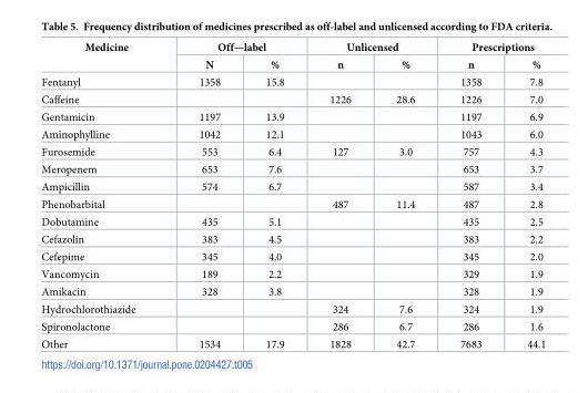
<table><thead><tr><td rowspan="2">Medicine</td><td colspan="2">Off—label</td><td colspan="2">Unlicensed</td><td colspan="2">Prescriptions</td></tr><tr><td>N</td><td>%</td><td>n</td><td>%</td><td>n</td><td>%</td></tr></thead><tbody><tr><td>Fentanyl</td><td>1358</td><td>15.8</td><td></td><td></td><td>1358</td><td>7.8</td></tr><tr><td>Caffeine</td><td></td><td></td><td>1226</td><td>28.6</td><td>1226</td><td>7.0</td></tr><tr><td>Gentamicin</td><td>1197</td><td>13.9</td><td></td><td></td><td>1197</td><td>6.9</td></tr><tr><td>Aminophylline</td><td>1042</td><td>12.1</td><td></td><td></td><td>1043</td><td>6.0</td></tr><tr><td>Furosemide</td><td>553</td><td>6.4</td><td>127</td><td>3.0</td><td>757</td><td>4.3</td></tr><tr><td>Meropenem</td><td>653</td><td>7.6</td><td></td><td></td><td>653</td><td>3.7</td></tr><tr><td>Ampicillin</td><td>574</td><td>6.7</td><td></td><td></td><td>587</td><td>3.4</td></tr><tr><td>Phenobarbital</td><td></td><td></td><td>487</td><td>11.4</td><td>487</td><td>2.8</td></tr><tr><td>Dobutamine</td><td>435</td><td>5.1</td><td></td><td></td><td>435</td><td>2.5</td></tr><tr><td>Cefazolin</td><td>383</td><td>4.5</td><td></td><td></td><td>383</td><td>2.2</td></tr><tr><td>Cefepime</td><td>345</td><td>4.0</td><td></td><td></td><td>345</td><td>2.0</td></tr><tr><td>Vancomycin</td><td>189</td><td>2.2</td><td></td><td></td><td>329</td><td>1.9</td></tr><tr><td>Amikacin</td><td>328</td><td>3.8</td><td></td><td></td><td>328</td><td>1.9</td></tr><tr><td>Hydrochlorothiazide</td><td></td><td></td><td>324</td><td>7.6</td><td>324</td><td>1.9</td></tr><tr><td>Spironolactone</td><td></td><td></td><td>286</td><td>6.7</td><td>286</td><td>1.6</td></tr><tr><td>Other</td><td>1534</td><td>17.9</td><td>1828</td><td>42.7</td><td>7683</td><td>44.1</td></tr></tbody></table>